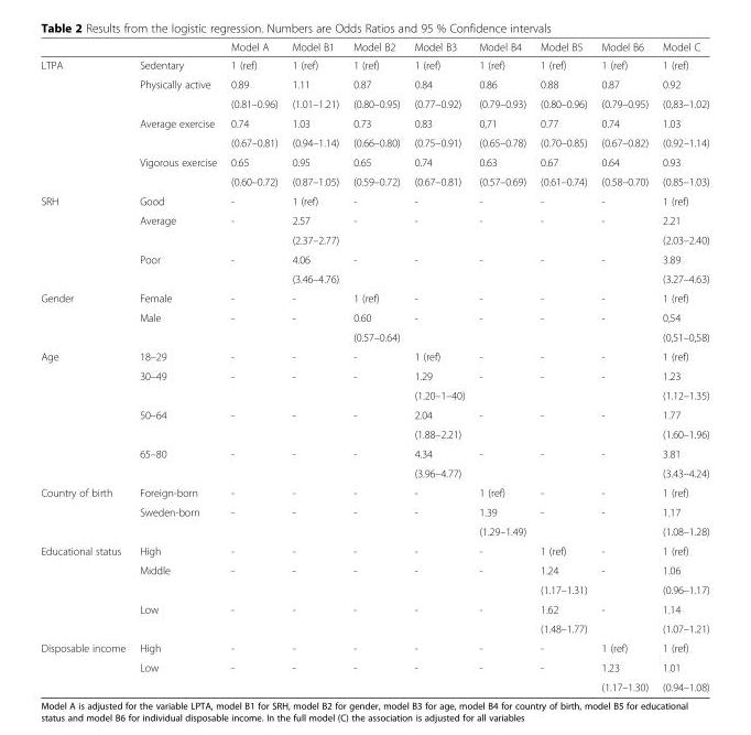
<table><thead><tr><td></td><td></td><td>Model A</td><td>Model B1</td><td>Model B2</td><td>Model B3</td><td>Model B4</td><td>Model B5</td><td>Model B6</td><td>Model C</td></tr></thead><tbody><tr><td rowspan="7">LTPA</td><td>Sedentary</td><td>1 (ref)</td><td>1 (ref)</td><td>1 (ref)</td><td>1 (ref)</td><td>1 (ref)</td><td>1 (ref)</td><td>1 (ref)</td><td>1 (ref)</td></tr><tr><td>Physically active</td><td>0.89</td><td>1.11</td><td>0.87</td><td>0.84</td><td>0.86</td><td>0.88</td><td>0.87</td><td>0.92</td></tr><tr><td></td><td>(0.81–0.96)</td><td>(1.01–1.21)</td><td>(0.80–0.95)</td><td>(0.77–0.92)</td><td>(0.79–0.93)</td><td>(0.80–0.96)</td><td>(0.79–0.95)</td><td>(0,83–1.02)</td></tr><tr><td>Average exercise</td><td>0.74</td><td>1.03</td><td>0.73</td><td>0.83</td><td>0,71</td><td>0.77</td><td>0.74</td><td>1.03</td></tr><tr><td></td><td>(0.67–0.81)</td><td>(0.94–1.14)</td><td>(0.66–0.80)</td><td>(0.75–0.91)</td><td>(0.65–0.78)</td><td>(0.70–0.85)</td><td>(0.67–0.82)</td><td>(0.92–1.14)</td></tr><tr><td>Vigorous exercise</td><td>0.65</td><td>0.95</td><td>0.65</td><td>0.74</td><td>0.63</td><td>0.67</td><td>0.64</td><td>0.93</td></tr><tr><td></td><td>(0.60–0.72)</td><td>(0.87–1.05)</td><td>(0.59–0.72)</td><td>(0.67–0.81)</td><td>(0.57–0.69)</td><td>(0.61–0.74)</td><td>(0.58–0.70)</td><td>(0.85–1.03)</td></tr><tr><td rowspan="5">SRH</td><td>Good</td><td>-</td><td>1 (ref)</td><td>-</td><td>-</td><td>-</td><td>-</td><td>-</td><td>1 (ref)</td></tr><tr><td>Average</td><td>-</td><td>2.57</td><td>-</td><td>-</td><td>-</td><td>-</td><td>-</td><td>2.21</td></tr><tr><td></td><td></td><td>(2.37–2.77)</td><td></td><td></td><td></td><td></td><td></td><td>(2.03–2.40)</td></tr><tr><td>Poor</td><td>-</td><td>4.06</td><td>-</td><td>-</td><td>-</td><td>-</td><td>-</td><td>3.89</td></tr><tr><td></td><td></td><td>(3.46–4.76)</td><td></td><td></td><td></td><td></td><td></td><td>(3.27–4.63)</td></tr><tr><td rowspan="3">Gender</td><td>Female</td><td>-</td><td>-</td><td>1 (ref)</td><td>-</td><td>-</td><td>-</td><td>-</td><td>1 (ref)</td></tr><tr><td>Male</td><td>-</td><td>-</td><td>0.60</td><td>-</td><td>-</td><td>-</td><td>-</td><td>0,54</td></tr><tr><td></td><td></td><td></td><td>(0.57–0.64)</td><td></td><td></td><td></td><td></td><td>(0,51–0,58)</td></tr><tr><td rowspan="7">Age</td><td>18–29</td><td>-</td><td>-</td><td>-</td><td>1 (ref)</td><td>-</td><td>-</td><td>-</td><td>1 (ref)</td></tr><tr><td>30–49</td><td>-</td><td>-</td><td>-</td><td>1.29</td><td>-</td><td>-</td><td>-</td><td>1.23</td></tr><tr><td></td><td></td><td></td><td></td><td>(1.20–1–40)</td><td></td><td></td><td></td><td>(1.12–1.35)</td></tr><tr><td>50–64</td><td>-</td><td>-</td><td>-</td><td>2.04</td><td>-</td><td>-</td><td>-</td><td>1.77</td></tr><tr><td></td><td></td><td></td><td></td><td>(1.88–2.21)</td><td></td><td></td><td></td><td>(1.60–1.96)</td></tr><tr><td>65–80</td><td>-</td><td>-</td><td>-</td><td>4.34</td><td>-</td><td>-</td><td>-</td><td>3.81</td></tr><tr><td></td><td></td><td></td><td></td><td>(3.96–4.77)</td><td></td><td></td><td></td><td>(3.43–4.24)</td></tr><tr><td rowspan="3">Country of birth</td><td>Foreign-born</td><td>-</td><td>-</td><td>-</td><td>-</td><td>1 (ref)</td><td>-</td><td>-</td><td>1 (ref)</td></tr><tr><td>Sweden-born</td><td>-</td><td>-</td><td>-</td><td>-</td><td>1.39</td><td>-</td><td>-</td><td>1.17</td></tr><tr><td></td><td></td><td></td><td></td><td></td><td>(1.29–1.49)</td><td></td><td></td><td>(1.08–1.28)</td></tr><tr><td rowspan="5">Educational status</td><td>High</td><td>-</td><td>-</td><td>-</td><td>-</td><td>-</td><td>1 (ref)</td><td>-</td><td>1 (ref)</td></tr><tr><td>Middle</td><td>-</td><td>-</td><td>-</td><td>-</td><td>-</td><td>1.24</td><td>-</td><td>1.06</td></tr><tr><td></td><td></td><td></td><td></td><td></td><td></td><td>(1.17–1.31)</td><td></td><td>(0.96–1.17)</td></tr><tr><td>Low</td><td>-</td><td>-</td><td>-</td><td>-</td><td>-</td><td>1.62</td><td>-</td><td>1.14</td></tr><tr><td></td><td></td><td></td><td></td><td></td><td></td><td>(1.48–1.77)</td><td></td><td>(1.07–1.21)</td></tr><tr><td rowspan="3">Disposable income</td><td>High</td><td>-</td><td>-</td><td>-</td><td>-</td><td>-</td><td>-</td><td>1 (ref)</td><td>1 (ref)</td></tr><tr><td>Low</td><td>-</td><td>-</td><td>-</td><td>-</td><td>-</td><td>-</td><td>1.23</td><td>1.01</td></tr><tr><td></td><td></td><td></td><td></td><td></td><td></td><td></td><td>(1.17–1.30)</td><td>(0.94–1.08)</td></tr></tbody></table>